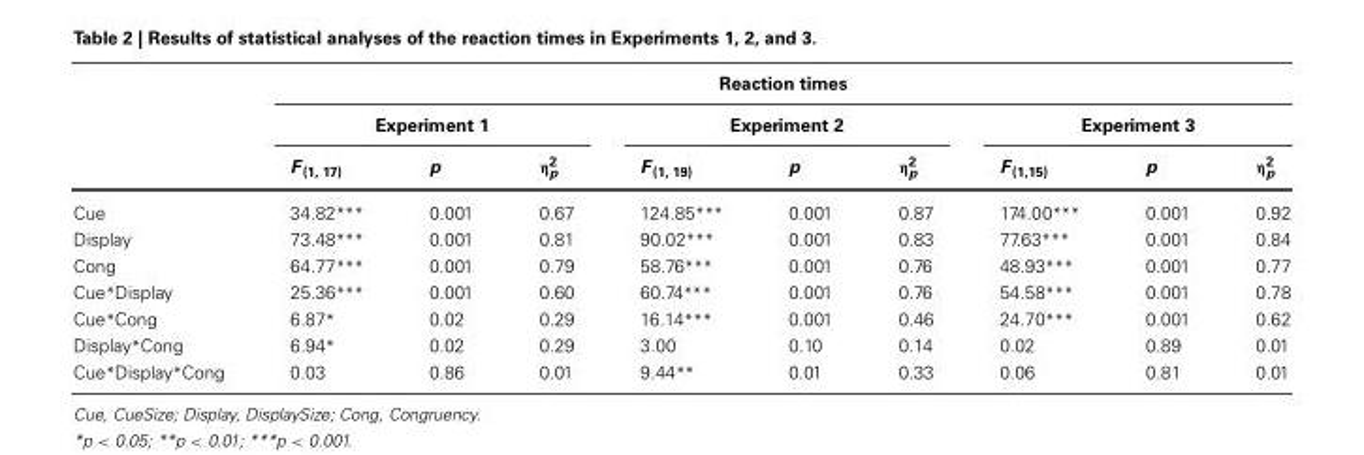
<table><thead><tr><td rowspan="3"></td><td colspan="9">Reaction times</td></tr><tr><td colspan="3">Experiment 1</td><td colspan="3">Experiment 2</td><td colspan="3">Experiment 3</td></tr><tr><td>F <sub>(1, 17)</sub></td><td>p</td><td>η<sup>2</sup> <sub>p</sub></td><td>F <sub>(1, 19)</sub></td><td>p</td><td>η<sup>2</sup> <sub>p</sub></td><td>F <sub>(1,15)</sub></td><td>p</td><td>η<sup>2</sup> <sub>p</sub></td></tr></thead><tbody><tr><td>Cue</td><td>34.82***</td><td>0.001</td><td>0.67</td><td>124.85***</td><td>0.001</td><td>0.87</td><td>174.00***</td><td>0.001</td><td>0.92</td></tr><tr><td>Display</td><td>73.48***</td><td>0.001</td><td>0.81</td><td>90.02***</td><td>0.001</td><td>0.83</td><td>77.63***</td><td>0.001</td><td>0.84</td></tr><tr><td>Cong</td><td>64.77***</td><td>0.001</td><td>0.79</td><td>58.76***</td><td>0.001</td><td>0.76</td><td>48.93***</td><td>0.001</td><td>0.77</td></tr><tr><td>Cue*Display</td><td>25.36***</td><td>0.001</td><td>0.60</td><td>60.74***</td><td>0.001</td><td>0.76</td><td>54.58***</td><td>0.001</td><td>0.78</td></tr><tr><td>Cue*Cong</td><td>6.87*</td><td>0.02</td><td>0.29</td><td>16.14***</td><td>0.001</td><td>0.46</td><td>24.70***</td><td>0.001</td><td>0.62</td></tr><tr><td>Display*Cong</td><td>6.94*</td><td>0.02</td><td>0.29</td><td>3.00</td><td>0.10</td><td>0.14</td><td>0.02</td><td>0.89</td><td>0.01</td></tr><tr><td>Cue*Display*Cong</td><td>0.03</td><td>0.86</td><td>0.01</td><td>9.44**</td><td>0.01</td><td>0.33</td><td>0.06</td><td>0.81</td><td>0.01</td></tr></tbody></table>